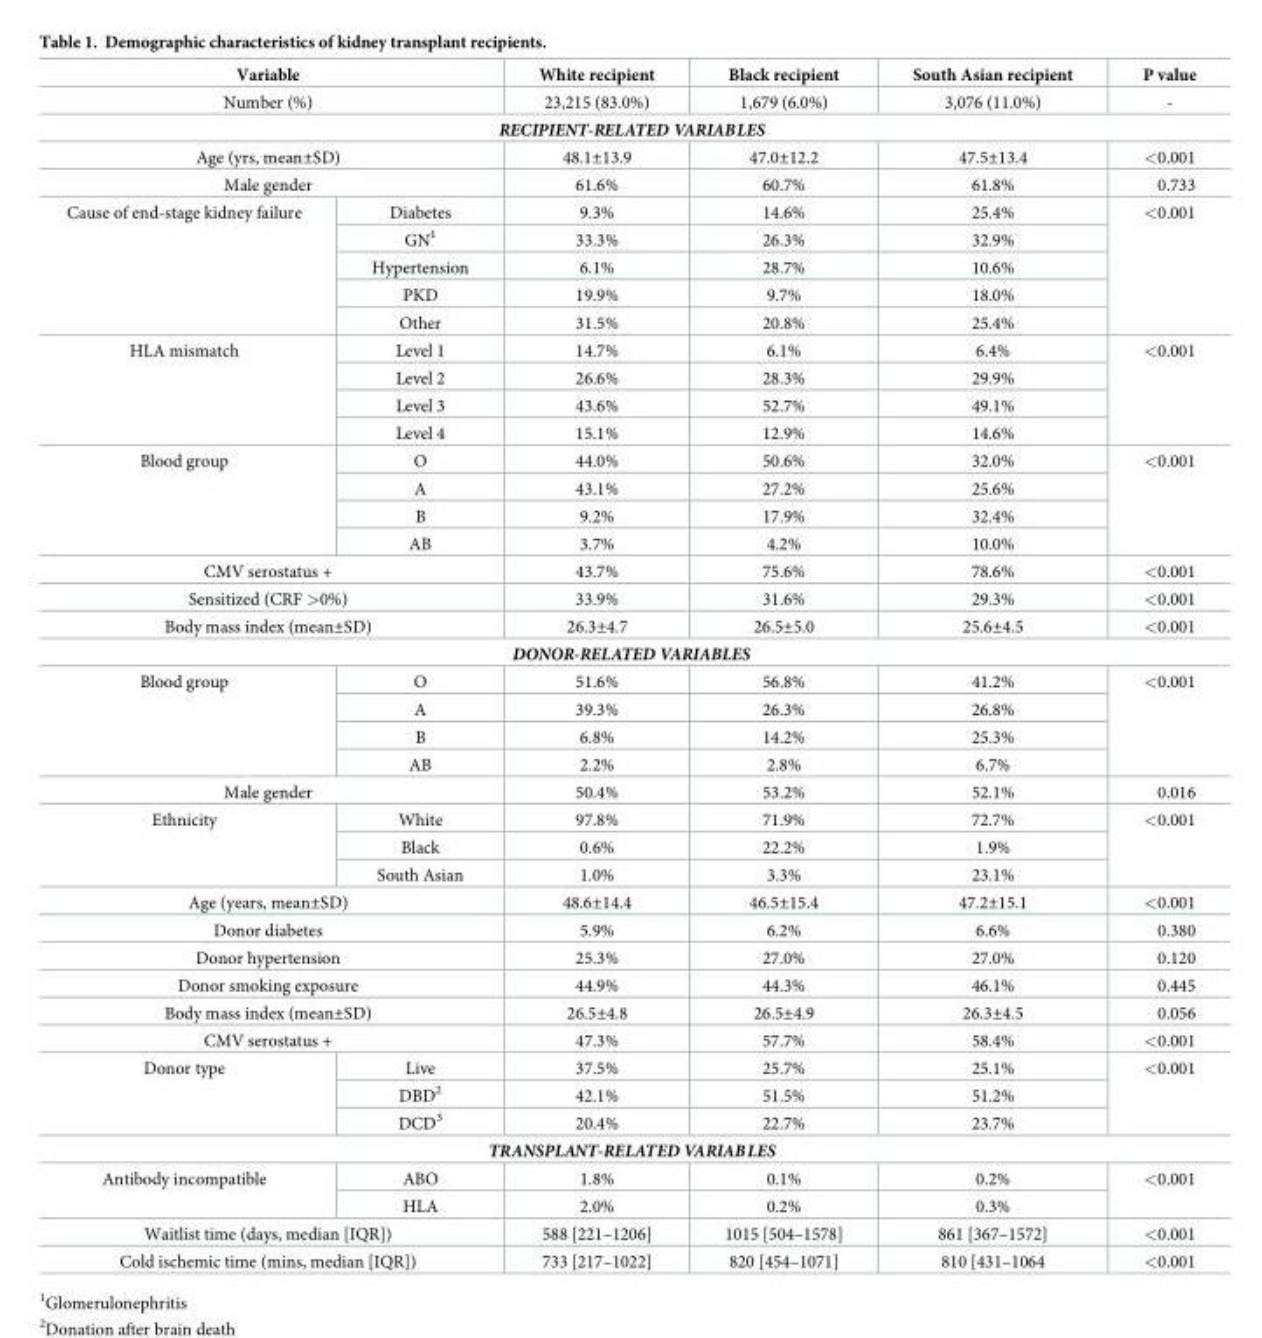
<table><thead><tr><td colspan="2">Variable</td><td>White recipient</td><td>Black recipient</td><td>South Asian recipient</td><td>P value</td></tr></thead><tbody><tr><td colspan="2">Number (%)</td><td>23,215 (83.0%)</td><td>1,679 (6.0%)</td><td>3,076 (11.0%)</td><td>-</td></tr><tr><td colspan="6">RECIPIENT-RELATED VARIABLES</td></tr><tr><td colspan="2">Age (yrs, mean±SD)</td><td>48.1±13.9</td><td>47.0±12.2</td><td>47.5±13.4</td><td>&lt;0.001</td></tr><tr><td colspan="2">Male gender</td><td>61.6%</td><td>60.7%</td><td>61.8%</td><td>0.733</td></tr><tr><td rowspan="5">Cause of end-stage kidney failure</td><td>Diabetes</td><td>9.3%</td><td>14.6%</td><td>25.4%</td><td rowspan="5">&lt;0.001</td></tr><tr><td>GN<sup>1</sup></td><td>33.3%</td><td>26.3%</td><td>32.9%</td></tr><tr><td>Hypertension</td><td>6.1%</td><td>28.7%</td><td>10.6%</td></tr><tr><td>PKD</td><td>19.9%</td><td>9.7%</td><td>18.0%</td></tr><tr><td>Other</td><td>31.5%</td><td>20.8%</td><td>25.4%</td></tr><tr><td rowspan="4">HLA mismatch</td><td>Level 1</td><td>14.7%</td><td>6.1%</td><td>6.4%</td><td rowspan="4">&lt;0.001</td></tr><tr><td>Level 2</td><td>26.6%</td><td>28.3%</td><td>29.9%</td></tr><tr><td>Level 3</td><td>43.6%</td><td>52.7%</td><td>49.1%</td></tr><tr><td>Level 4</td><td>15.1%</td><td>12.9%</td><td>14.6%</td></tr><tr><td rowspan="4">Blood group</td><td>O</td><td>44.0%</td><td>50.6%</td><td>32.0%</td><td rowspan="4">&lt;0.001</td></tr><tr><td>A</td><td>43.1%</td><td>27.2%</td><td>25.6%</td></tr><tr><td>B</td><td>9.2%</td><td>17.9%</td><td>32.4%</td></tr><tr><td>AB</td><td>3.7%</td><td>4.2%</td><td>10.0%</td></tr><tr><td colspan="2">CMV serostatus +</td><td>43.7%</td><td>75.6%</td><td>78.6%</td><td>&lt;0.001</td></tr><tr><td colspan="2">Sensitized (CRF &gt;0%)</td><td>33.9%</td><td>31.6%</td><td>29.3%</td><td>&lt;0.001</td></tr><tr><td colspan="2">Body mass index (mean±SD)</td><td>26.3±4.7</td><td>26.5±5.0</td><td>25.6±4.5</td><td>&lt;0.001</td></tr><tr><td colspan="6">DONOR-RELATED VARIABLES</td></tr><tr><td rowspan="4">Blood group</td><td>O</td><td>51.6%</td><td>56.8%</td><td>41.2%</td><td rowspan="4">&lt;0.001</td></tr><tr><td>A</td><td>39.3%</td><td>26.3%</td><td>26.8%</td></tr><tr><td>B</td><td>6.8%</td><td>14.2%</td><td>25.3%</td></tr><tr><td>AB</td><td>2.2%</td><td>2.8%</td><td>6.7%</td></tr><tr><td colspan="2">Male gender</td><td>50.4%</td><td>53.2%</td><td>52.1%</td><td>0.016</td></tr><tr><td rowspan="3">Ethnicity</td><td>White</td><td>97.8%</td><td>71.9%</td><td>72.7%</td><td rowspan="3">&lt;0.001</td></tr><tr><td>Black</td><td>0.6%</td><td>22.2%</td><td>1.9%</td></tr><tr><td>South Asian</td><td>1.0%</td><td>3.3%</td><td>23.1%</td></tr><tr><td colspan="2">Age (years, mean±SD)</td><td>48.6±14.4</td><td>46.5±15.4</td><td>47.2±15.1</td><td>&lt;0.001</td></tr><tr><td colspan="2">Donor diabetes</td><td>5.9%</td><td>6.2%</td><td>6.6%</td><td>0.380</td></tr><tr><td colspan="2">Donor hypertension</td><td>25.3%</td><td>27.0%</td><td>27.0%</td><td>0.120</td></tr><tr><td colspan="2">Donor smoking exposure</td><td>44.9%</td><td>44.3%</td><td>46.1%</td><td>0.445</td></tr><tr><td colspan="2">Body mass index (mean±SD)</td><td>26.5±4.8</td><td>26.5±4.9</td><td>26.3±4.5</td><td>0.056</td></tr><tr><td colspan="2">CMV serostatus +</td><td>47.3%</td><td>57.7%</td><td>58.4%</td><td>&lt;0.001</td></tr><tr><td rowspan="3">Donor type</td><td>Live</td><td>37.5%</td><td>25.7%</td><td>25.1%</td><td rowspan="3">&lt;0.001</td></tr><tr><td>DBD<sup>2</sup></td><td>42.1%</td><td>51.5%</td><td>51.2%</td></tr><tr><td>DCD<sup>3</sup></td><td>20.4%</td><td>22.7%</td><td>23.7%</td></tr><tr><td colspan="6">TRANSPLANT-RELATED VARIABLES</td></tr><tr><td rowspan="2">Antibody incompatible</td><td>ABO</td><td>1.8%</td><td>0.1%</td><td>0.2%</td><td rowspan="2">&lt;0.001</td></tr><tr><td>HLA</td><td>2.0%</td><td>0.2%</td><td>0.3%</td></tr><tr><td colspan="2">Waitlist time (days, median [IQR])</td><td>588 [221–1206]</td><td>1015 [504–1578]</td><td>861 [367–1572]</td><td>&lt;0.001</td></tr><tr><td colspan="2">Cold ischemic time (mins, median [IQR])</td><td>733 [217–1022]</td><td>820 [454–1071]</td><td>810 [431–1064</td><td>&lt;0.001</td></tr></tbody></table>